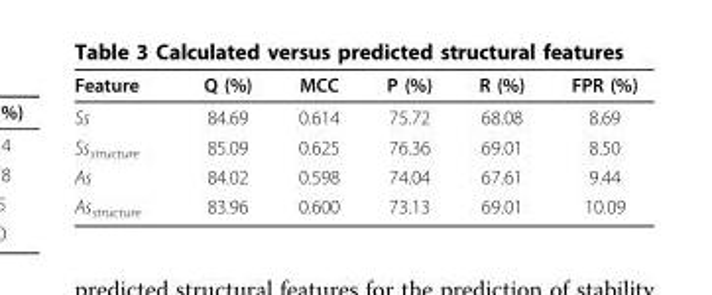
<table><thead><tr><td>Feature</td><td>Q (%)</td><td>MCC</td><td>P (%)</td><td>R (%)</td><td>FPR (%)</td></tr></thead><tbody><tr><td>Ss</td><td>84.69</td><td>0.614</td><td>75.72</td><td>68.08</td><td>8.69</td></tr><tr><td>Ss<sub>structure</sub></td><td>85.09</td><td>0.625</td><td>76.36</td><td>69.01</td><td>8.50</td></tr><tr><td>As</td><td>84.02</td><td>0.598</td><td>74.04</td><td>67.61</td><td>9.44</td></tr><tr><td>As<sub>structure</sub></td><td>83.96</td><td>0.600</td><td>73.13</td><td>69.01</td><td>10.09</td></tr></tbody></table>